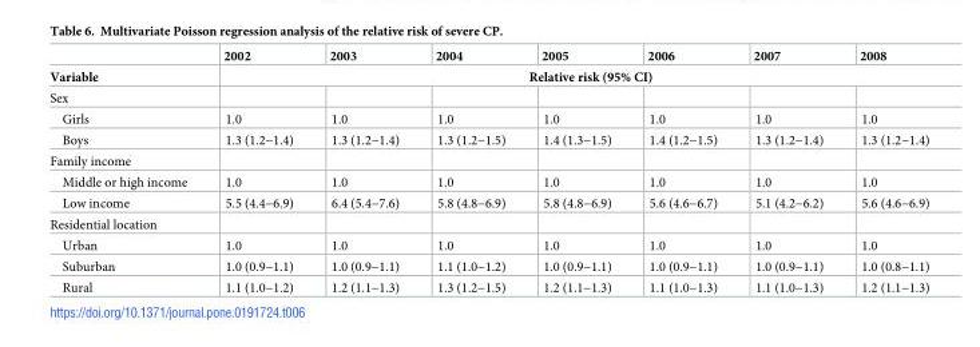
<table><thead><tr><td rowspan="2">Variable</td><td>2002</td><td>2003</td><td>2004</td><td>2005</td><td>2006</td><td>2007</td><td>2008</td></tr><tr><td colspan="7">Relative risk (95% CI)</td></tr></thead><tbody><tr><td colspan="8">Sex</td></tr><tr><td>Girls</td><td>1.0</td><td>1.0</td><td>1.0</td><td>1.0</td><td>1.0</td><td>1.0</td><td>1.0</td></tr><tr><td>Boys</td><td>1.3 (1.2−1.4)</td><td>1.3 (1.2−1.4)</td><td>1.3 (1.2−1.5)</td><td>1.4 (1.3−1.5)</td><td>1.4 (1.2−1.5)</td><td>1.3 (1.2−1.4)</td><td>1.3 (1.2−1.4)</td></tr><tr><td colspan="8">Family income</td></tr><tr><td>Middle or high income</td><td>1.0</td><td>1.0</td><td>1.0</td><td>1.0</td><td>1.0</td><td>1.0</td><td>1.0</td></tr><tr><td>Low income</td><td>5.5 (4.4−6.9)</td><td>6.4 (5.4−7.6)</td><td>5.8 (4.8−6.9)</td><td>5.8 (4.8−6.9)</td><td>5.6 (4.6−6.7)</td><td>5.1 (4.2−6.2)</td><td>5.6 (4.6−6.9)</td></tr><tr><td colspan="8">Residential location</td></tr><tr><td>Urban</td><td>1.0</td><td>1.0</td><td>1.0</td><td>1.0</td><td>1.0</td><td>1.0</td><td>1.0</td></tr><tr><td>Suburban</td><td>1.0 (0.9−1.1)</td><td>1.0 (0.9−1.1)</td><td>1.1 (1.0−1.2)</td><td>1.0 (0.9−1.1)</td><td>1.0 (0.9−1.1)</td><td>1.0 (0.9−1.1)</td><td>1.0 (0.8−1.1)</td></tr><tr><td>Rural</td><td>1.1 (1.0−1.2)</td><td>1.2 (1.1−1.3)</td><td>1.3 (1.2−1.5)</td><td>1.2 (1.1−1.3)</td><td>1.1 (1.0−1.3)</td><td>1.1 (1.0−1.3)</td><td>1.2 (1.1−1.3)</td></tr></tbody></table>